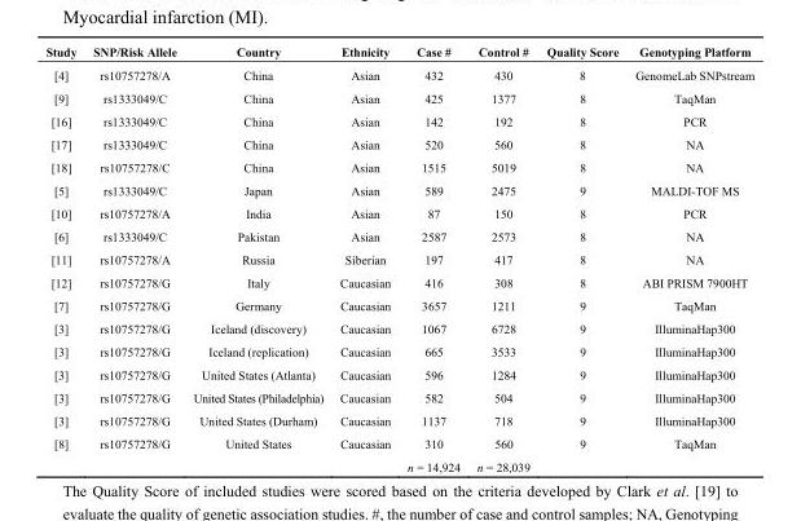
<table><thead><tr><td>Study</td><td>SNP/Risk Allele</td><td>Country</td><td>Ethnicity</td><td>Case #</td><td>Control #</td><td>Quality Score</td><td>Genotyping Platform</td></tr></thead><tbody><tr><td>[4]</td><td>rs10757278/A</td><td>China</td><td>Asian</td><td>432</td><td>430</td><td>8</td><td>GenomeLab SNPstream</td></tr><tr><td>[9]</td><td>rs1333049/C</td><td>China</td><td>Asian</td><td>425</td><td>1377</td><td>8</td><td>TaqMan</td></tr><tr><td>[16]</td><td>rs1333049/C</td><td>China</td><td>Asian</td><td>142</td><td>192</td><td>8</td><td>PCR</td></tr><tr><td>[17]</td><td>rs1333049/C</td><td>China</td><td>Asian</td><td>520</td><td>560</td><td>8</td><td>NA</td></tr><tr><td>[18]</td><td>rs10757278/C</td><td>China</td><td>Asian</td><td>1515</td><td>5019</td><td>8</td><td>NA</td></tr><tr><td>[5]</td><td>rs1333049/C</td><td>Japan</td><td>Asian</td><td>589</td><td>2475</td><td>9</td><td>MALDI-TOF MS</td></tr><tr><td>[10]</td><td>rs10757278/A</td><td>India</td><td>Asian</td><td>87</td><td>150</td><td>8</td><td>PCR</td></tr><tr><td>[6]</td><td>rs1333049/C</td><td>Pakistan</td><td>Asian</td><td>2587</td><td>2573</td><td>8</td><td>NA</td></tr><tr><td>[11]</td><td>rs10757278/A</td><td>Russia</td><td>Siberian</td><td>197</td><td>417</td><td>8</td><td>NA</td></tr><tr><td>[12]</td><td>rs10757278/G</td><td>Italy</td><td>Caucasian</td><td>416</td><td>308</td><td>8</td><td>ABI PRISM 7900HT</td></tr><tr><td>[7]</td><td>rs10757278/G</td><td>Germany</td><td>Caucasian</td><td>3657</td><td>1211</td><td>9</td><td>TaqMan</td></tr><tr><td>[3]</td><td>rs10757278/G</td><td>Iceland (discovery)</td><td>Caucasian</td><td>1067</td><td>6728</td><td>9</td><td>IlluminaHap300</td></tr><tr><td>[3]</td><td>rs10757278/G</td><td>Iceland (replication)</td><td>Caucasian</td><td>665</td><td>3533</td><td>9</td><td>IlluminaHap300</td></tr><tr><td>[3]</td><td>rs10757278/G</td><td>United States (Atlanta)</td><td>Caucasian</td><td>596</td><td>1284</td><td>9</td><td>IlluminaHap300</td></tr><tr><td>[3]</td><td>rs10757278/G</td><td>United States (Philadelphia)</td><td>Caucasian</td><td>582</td><td>504</td><td>9</td><td>IlluminaHap300</td></tr><tr><td>[3]</td><td>rs10757278/G</td><td>United States (Durham)</td><td>Caucasian</td><td>1137</td><td>718</td><td>9</td><td>IlluminaHap300</td></tr><tr><td rowspan="2">[8]</td><td>rs10757278/G</td><td>United States</td><td>Caucasian</td><td>310</td><td>560</td><td>9</td><td>TaqMan</td></tr><tr><td></td><td></td><td></td><td>n = 14,924</td><td>n = 28,039</td><td></td><td></td></tr></tbody></table>